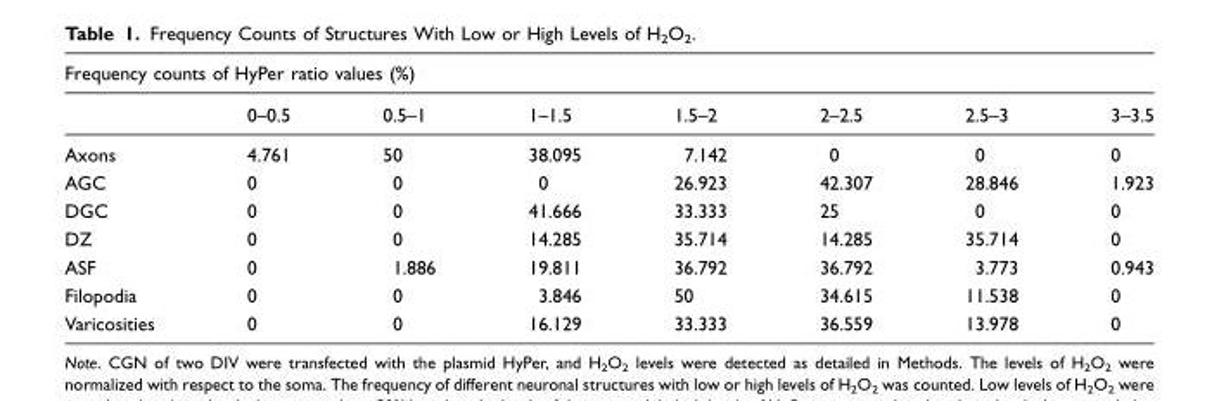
<table><thead><tr><td colspan="8">Frequency counts of HyPer ratio values (%)</td></tr><tr><td></td><td>0–0.5</td><td>0.5–1</td><td>1–1.5</td><td>1.5–2</td><td>2–2.5</td><td>2.5–3</td><td>3–3.5</td></tr></thead><tbody><tr><td>Axons</td><td>4.761</td><td>50</td><td>38.095</td><td>7.142</td><td>0</td><td>0</td><td>0</td></tr><tr><td>AGC</td><td>0</td><td>0</td><td>0</td><td>26.923</td><td>42.307</td><td>28.846</td><td>1.923</td></tr><tr><td>DGC</td><td>0</td><td>0</td><td>41.666</td><td>33.333</td><td>25</td><td>0</td><td>0</td></tr><tr><td>DZ</td><td>0</td><td>0</td><td>14.285</td><td>35.714</td><td>14.285</td><td>35.714</td><td>0</td></tr><tr><td>ASF</td><td>0</td><td>1.886</td><td>19.811</td><td>36.792</td><td>36.792</td><td>3.773</td><td>0.943</td></tr><tr><td>Filopodia</td><td>0</td><td>0</td><td>3.846</td><td>50</td><td>34.615</td><td>11.538</td><td>0</td></tr><tr><td>Varicosities</td><td>0</td><td>0</td><td>16.129</td><td>33.333</td><td>36.559</td><td>13.978</td><td>0</td></tr></tbody></table>